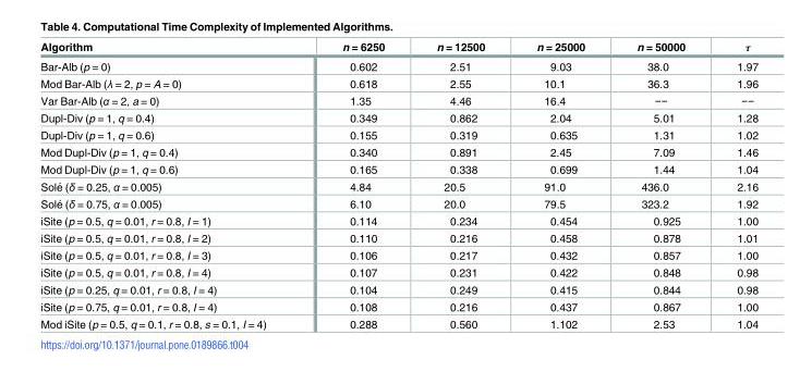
<table><thead><tr><td>Algorithm</td><td>n = 6250</td><td>n = 12500</td><td>n = 25000</td><td>n = 50000</td><td>τ</td></tr></thead><tbody><tr><td>Bar-Alb (p = 0)</td><td>0.602</td><td>2.51</td><td>9.03</td><td>38.0</td><td>1.97</td></tr><tr><td>Mod Bar-Alb (λ = 2, p = A = 0)</td><td>0.618</td><td>2.55</td><td>10.1</td><td>36.3</td><td>1.96</td></tr><tr><td>Var Bar-Alb (α = 2, a = 0)</td><td>1.35</td><td>4.46</td><td>16.4</td><td>−−</td><td>−−</td></tr><tr><td>Dupl-Div (p = 1, q = 0.4)</td><td>0.349</td><td>0.862</td><td>2.04</td><td>5.01</td><td>1.28</td></tr><tr><td>Dupl-Div (p = 1, q = 0.6)</td><td>0.155</td><td>0.319</td><td>0.635</td><td>1.31</td><td>1.02</td></tr><tr><td>Mod Dupl-Div (p = 1, q = 0.4)</td><td>0.340</td><td>0.891</td><td>2.45</td><td>7.09</td><td>1.46</td></tr><tr><td>Mod Dupl-Div (p = 1, q = 0.6)</td><td>0.165</td><td>0.338</td><td>0.699</td><td>1.44</td><td>1.04</td></tr><tr><td>Sole´ (δ = 0.25, α = 0.005)</td><td>4.84</td><td>20.5</td><td>91.0</td><td>436.0</td><td>2.16</td></tr><tr><td>Sole´ (δ = 0.75, α = 0.005)</td><td>6.10</td><td>20.0</td><td>79.5</td><td>323.2</td><td>1.92</td></tr><tr><td>iSite (p = 0.5, q = 0.01, r = 0.8, I = 1)</td><td>0.114</td><td>0.234</td><td>0.454</td><td>0.925</td><td>1.00</td></tr><tr><td>iSite (p = 0.5, q = 0.01, r = 0.8, I = 2)</td><td>0.110</td><td>0.216</td><td>0.458</td><td>0.878</td><td>1.01</td></tr><tr><td>iSite (p = 0.5, q = 0.01, r = 0.8, I = 3)</td><td>0.106</td><td>0.217</td><td>0.432</td><td>0.857</td><td>1.00</td></tr><tr><td>iSite (p = 0.5, q = 0.01, r = 0.8, I = 4)</td><td>0.107</td><td>0.231</td><td>0.422</td><td>0.848</td><td>0.98</td></tr><tr><td>iSite (p = 0.25, q = 0.01, r = 0.8, I = 4)</td><td>0.104</td><td>0.249</td><td>0.415</td><td>0.844</td><td>0.98</td></tr><tr><td>iSite (p = 0.75, q = 0.01, r = 0.8, I = 4)</td><td>0.108</td><td>0.216</td><td>0.437</td><td>0.867</td><td>1.00</td></tr><tr><td>Mod iSite (p = 0.5, q = 0.1, r = 0.8, s = 0.1, I = 4)</td><td>0.288</td><td>0.560</td><td>1.102</td><td>2.53</td><td>1.04</td></tr></tbody></table>